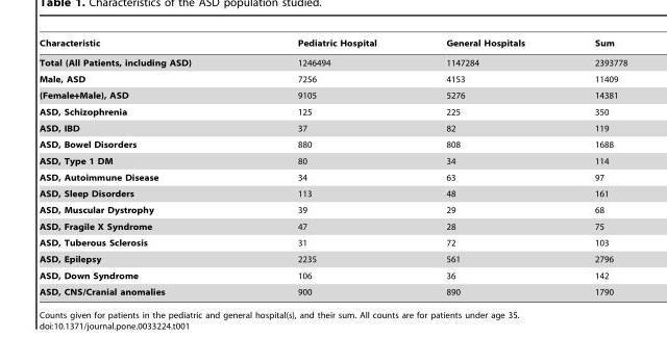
<table><thead><tr><td>Characteristic</td><td>Pediatric Hospital</td><td>General Hospitals</td><td>Sum</td></tr></thead><tbody><tr><td>Total (All Patients, including ASD)</td><td>1246494</td><td>1147284</td><td>2393778</td></tr><tr><td>Male, ASD</td><td>7256</td><td>4153</td><td>11409</td></tr><tr><td>(Female+Male), ASD</td><td>9105</td><td>5276</td><td>14381</td></tr><tr><td>ASD, Schizophrenia</td><td>125</td><td>225</td><td>350</td></tr><tr><td>ASD, IBD</td><td>37</td><td>82</td><td>119</td></tr><tr><td>ASD, Bowel Disorders</td><td>880</td><td>808</td><td>1688</td></tr><tr><td>ASD, Type 1 DM</td><td>80</td><td>34</td><td>114</td></tr><tr><td>ASD, Autoimmune Disease</td><td>34</td><td>63</td><td>97</td></tr><tr><td>ASD, Sleep Disorders</td><td>113</td><td>48</td><td>161</td></tr><tr><td>ASD, Muscular Dystrophy</td><td>39</td><td>29</td><td>68</td></tr><tr><td>ASD, Fragile X Syndrome</td><td>47</td><td>28</td><td>75</td></tr><tr><td>ASD, Tuberous Sclerosis</td><td>31</td><td>72</td><td>103</td></tr><tr><td>ASD, Epilepsy</td><td>2235</td><td>561</td><td>2796</td></tr><tr><td>ASD, Down Syndrome</td><td>106</td><td>36</td><td>142</td></tr><tr><td>ASD, CNS/Cranial anomalies</td><td>900</td><td>890</td><td>1790</td></tr></tbody></table>